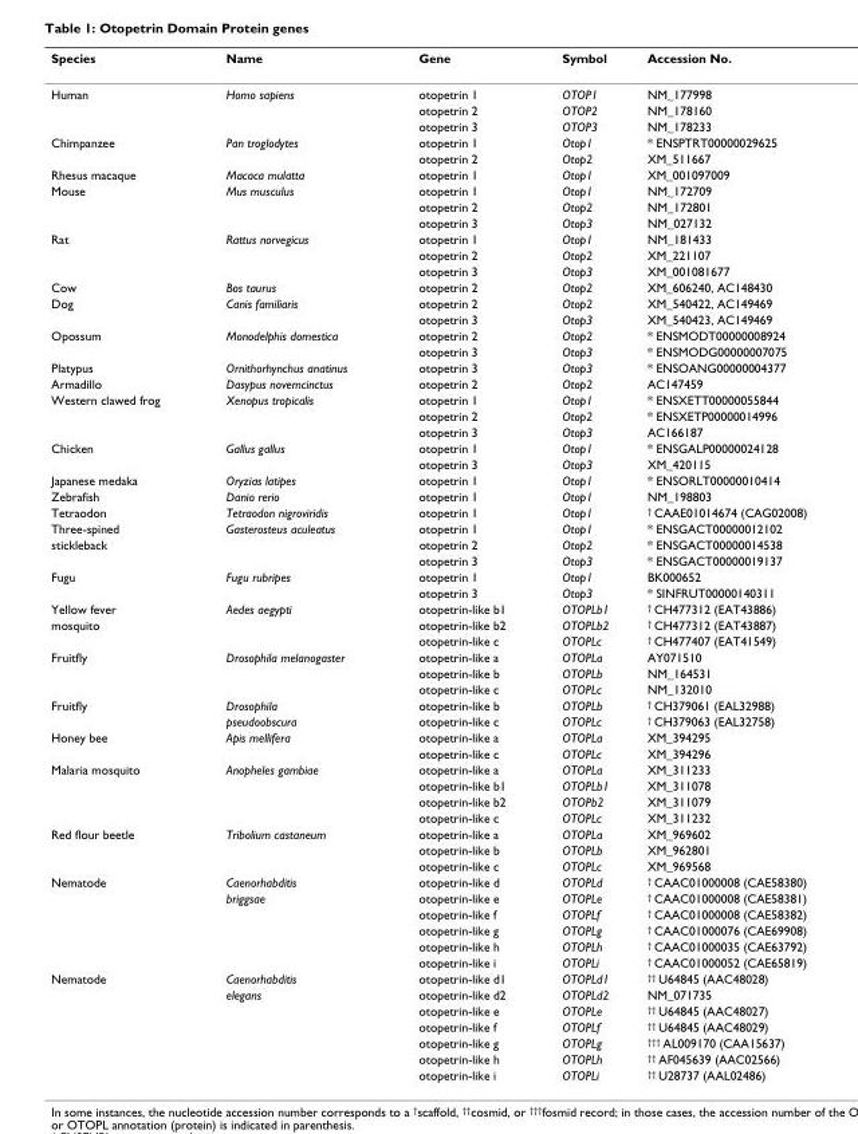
<table><thead><tr><td>Species</td><td>Name</td><td>Gene</td><td>Symbol</td><td>Accession No.</td></tr></thead><tbody><tr><td rowspan="3">Human</td><td>Homo sapiens</td><td>otopetrin 1</td><td>OTOP1</td><td>NM_177998</td></tr><tr><td></td><td>otopetrin 2</td><td>OTOP2</td><td>NM_178160</td></tr><tr><td></td><td>otopetrin 3</td><td>OTOP3</td><td>NM_178233</td></tr><tr><td rowspan="2">Chimpanzee</td><td>Pan troglodytes</td><td>otopetrin 1</td><td>Otop1</td><td>* ENSPTRT00000029625</td></tr><tr><td></td><td>otopetrin 2</td><td>Otop2</td><td>XM_511667</td></tr><tr><td>Rhesus macaque</td><td>Macaca mulatta</td><td>otopetrin 1</td><td>Otop1</td><td>XM_001097009</td></tr><tr><td rowspan="3">Mouse</td><td>Mus musculus</td><td>otopetrin 1</td><td>Otop1</td><td>NM_172709</td></tr><tr><td></td><td>otopetrin 2</td><td>Otop2</td><td>NM_172801</td></tr><tr><td></td><td>otopetrin 3</td><td>Otop3</td><td>NM_027132</td></tr><tr><td rowspan="3">Rat</td><td>Rattus norvegicus</td><td>otopetrin 1</td><td>Otop1</td><td>NM_181433</td></tr><tr><td></td><td>otopetrin 2</td><td>Otop2</td><td>XM_221107</td></tr><tr><td></td><td>otopetrin 3</td><td>Otop3</td><td>XM_001081677</td></tr><tr><td>Cow</td><td>Bos taurus</td><td>otopetrin 2</td><td>Otop2</td><td>XM_606240, AC148430</td></tr><tr><td rowspan="2">Dog</td><td>Canis familiaris</td><td>otopetrin 2</td><td>Otop2</td><td>XM_540422, AC149469</td></tr><tr><td></td><td>otopetrin 3</td><td>Otop3</td><td>XM_540423, AC149469</td></tr><tr><td rowspan="2">Opossum</td><td>Monodelphis domestica</td><td>otopetrin 2</td><td>Otop2</td><td>* ENSMODT00000008924</td></tr><tr><td></td><td>otopetrin 3</td><td>Otop3</td><td>* ENSMODG00000007075</td></tr><tr><td>Platypus</td><td>Ornithorhynchus anatinus</td><td>otopetrin 3</td><td>Otop3</td><td>* ENSOANG00000004377</td></tr><tr><td>Armadillo</td><td>Dasypus novemcinctus</td><td>otopetrin 2</td><td>Otop2</td><td>AC147459</td></tr><tr><td rowspan="3">Western clawed frog</td><td>Xenopus tropicalis</td><td>otopetrin 1</td><td>Otop1</td><td>* ENSXETT00000055844</td></tr><tr><td></td><td>otopetrin 2</td><td>Otop2</td><td>* ENSXETP00000014996</td></tr><tr><td></td><td>otopetrin 3</td><td>Otop3</td><td>AC166187</td></tr><tr><td rowspan="2">Chicken</td><td>Gallus gallus</td><td>otopetrin 1</td><td>Otop1</td><td>* ENSGALP00000024128</td></tr><tr><td></td><td>otopetrin 3</td><td>Otop3</td><td>XM_420115</td></tr><tr><td>Japanese medaka</td><td>Oryzias latipes</td><td>otopetrin 1</td><td>Otop1</td><td>* ENSORLT00000010414</td></tr><tr><td>Zebrafish</td><td>Danio rerio</td><td>otopetrin 1</td><td>Otop1</td><td>NM_198803</td></tr><tr><td>Tetraodon</td><td>Tetraodon nigroviridis</td><td>otopetrin 1</td><td>Otop1</td><td><sup>†</sup> CAAE01014674 (CAG02008)</td></tr><tr><td>Three-spined</td><td>Gasterosteus aculeatus</td><td>otopetrin 1</td><td>Otop1</td><td>* ENSGACT00000012102</td></tr><tr><td rowspan="2">stickleback</td><td></td><td>otopetrin 2</td><td>Otop2</td><td>* ENSGACT00000014538</td></tr><tr><td></td><td>otopetrin 3</td><td>Otop3</td><td>* ENSGACT00000019137</td></tr><tr><td rowspan="2">Fugu</td><td>Fugu rubripes</td><td>otopetrin 1</td><td>Otop1</td><td>BK000652</td></tr><tr><td></td><td>otopetrin 3</td><td>Otop3</td><td>* SINFRUT00000140311</td></tr><tr><td>Yellow fever</td><td>Aedes aegypti</td><td>otopetrin-like b1</td><td>OTOPLb1</td><td><sup>†</sup> CH477312 (EAT43886)</td></tr><tr><td rowspan="2">mosquito</td><td></td><td>otopetrin-like b2</td><td>OTOPLb2</td><td><sup>†</sup> CH477312 (EAT43887)</td></tr><tr><td></td><td>otopetrin-like c</td><td>OTOPLc</td><td><sup>†</sup> CH477407 (EAT41549)</td></tr><tr><td rowspan="3">Fruitfly</td><td>Drosophila melanogaster</td><td>otopetrin-like a</td><td>OTOPLa</td><td>AY071510</td></tr><tr><td></td><td>otopetrin-like b</td><td>OTOPLb</td><td>NM_164531</td></tr><tr><td></td><td>otopetrin-like c</td><td>OTOPLc</td><td>NM_132010</td></tr><tr><td rowspan="2">Fruitfly</td><td>Drosophila</td><td>otopetrin-like b</td><td>OTOPLb</td><td><sup>†</sup> CH379061 (EAL32988)</td></tr><tr><td>pseudoobscura</td><td>otopetrin-like c</td><td>OTOPLc</td><td><sup>†</sup> CH379063 (EAL32758)</td></tr><tr><td rowspan="2">Honey bee</td><td>Apis mellifera</td><td>otopetrin-like a</td><td>OTOPLa</td><td>XM_394295</td></tr><tr><td></td><td>otopetrin-like c</td><td>OTOPLc</td><td>XM_394296</td></tr><tr><td rowspan="4">Malaria mosquito</td><td>Anopheles gambiae</td><td>otopetrin-like a</td><td>OTOPLa</td><td>XM_311233</td></tr><tr><td></td><td>otopetrin-like b1</td><td>OTOPLb1</td><td>XM_311078</td></tr><tr><td></td><td>otopetrin-like b2</td><td>OTOPb2</td><td>XM_311079</td></tr><tr><td></td><td>otopetrin-like c</td><td>OTOPLc</td><td>XM_311232</td></tr><tr><td rowspan="3">Red flour beetle</td><td>Tribolium castaneum</td><td>otopetrin-like a</td><td>OTOPLa</td><td>XM_969602</td></tr><tr><td></td><td>otopetrin-like b</td><td>OTOPLb</td><td>XM_962801</td></tr><tr><td></td><td>otopetrin-like c</td><td>OTOPLc</td><td>XM_969568</td></tr><tr><td rowspan="6">Nematode</td><td>Caenorhabditis</td><td>otopetrin-like d</td><td>OTOPLd</td><td><sup>†</sup> CAAC01000008 (CAE58380)</td></tr><tr><td>briggsae</td><td>otopetrin-like e</td><td>OTOPLe</td><td><sup>†</sup> CAAC01000008 (CAE58381)</td></tr><tr><td></td><td>otopetrin-like f</td><td>OTOPLf</td><td><sup>†</sup> CAAC01000008 (CAE58382)</td></tr><tr><td></td><td>otopetrin-like g</td><td>OTOPLg</td><td><sup>†</sup> CAAC01000076 (CAE69908)</td></tr><tr><td></td><td>otopetrin-like h</td><td>OTOPLh</td><td><sup>†</sup> CAAC01000035 (CAE63792)</td></tr><tr><td></td><td>otopetrin-like i</td><td>OTOPLi</td><td><sup>†</sup> CAAC01000052 (CAE65819)</td></tr><tr><td rowspan="7">Nematode</td><td>Caenorhabditis</td><td>otopetrin-like d1</td><td>OTOPLd1</td><td><sup>††</sup> U64845 (AAC48028)</td></tr><tr><td>elegans</td><td>otopetrin-like d2</td><td>OTOPLd2</td><td>NM_071735</td></tr><tr><td></td><td>otopetrin-like e</td><td>OTOPLe</td><td><sup>††</sup> U64845 (AAC48027)</td></tr><tr><td></td><td>otopetrin-like f</td><td>OTOPLf</td><td><sup>††</sup> U64845 (AAC48029)</td></tr><tr><td></td><td>otopetrin-like g</td><td>OTOPLg</td><td><sup>†††</sup> AL009170 (CAA15637)</td></tr><tr><td></td><td>otopetrin-like h</td><td>OTOPLh</td><td><sup>††</sup> AF045639 (AAC02566)</td></tr><tr><td></td><td>otopetrin-like i</td><td>OTOPLi</td><td><sup>††</sup> U28737 (AAL02486)</td></tr></tbody></table>